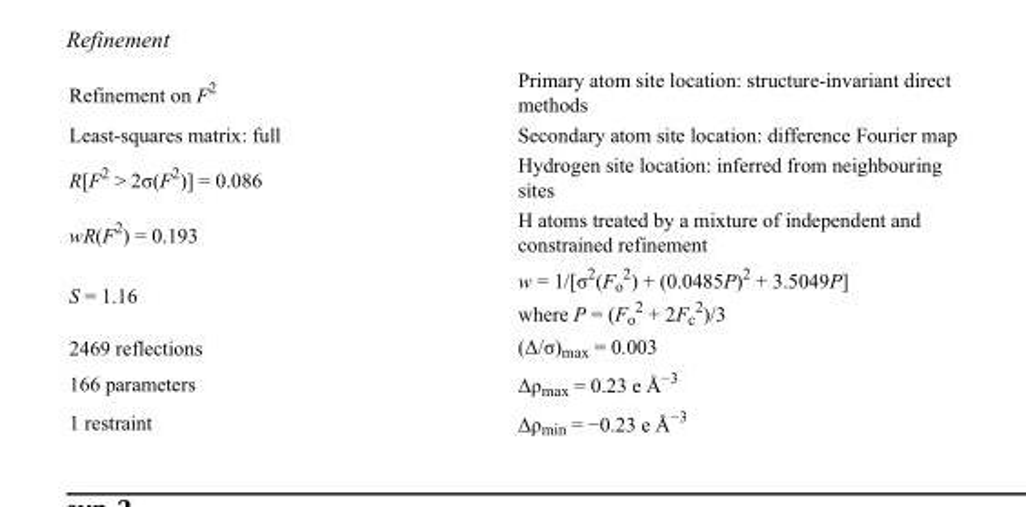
<table><tbody><tr><td>Refinement on F<sup>2</sup></td><td>Primary atom site location: structure-invariant direct methods</td></tr><tr><td>Least-squares matrix: full</td><td>Secondary atom site location: difference Fourier map</td></tr><tr><td>R[F<sup>2</sup> &gt; 2σ(F<sup>2</sup>)] = 0.086</td><td>Hydrogen site location: inferred from neighbouring sites</td></tr><tr><td>wR(F<sup>2</sup>) = 0.193</td><td>H atoms treated by a mixture of independent and constrained refinement</td></tr><tr><td>S = 1.16</td><td>w = 1/[σ<sup>2</sup>(F<sub>o</sub> <sup>2</sup>) + (0.0485P)<sup>2</sup> + 3.5049P] where P = (F<sub>o</sub> <sup>2</sup> + 2F<sub>c</sub> <sup>2</sup>)/3</td></tr><tr><td>2469 reflections</td><td>(Δ/σ)<sub>max</sub> = 0.003</td></tr><tr><td>166 parameters</td><td>Δρ<sub>max</sub> = 0.23 e Å<sup>−3</sup></td></tr><tr><td>1 restraint</td><td>Δρ<sub>min</sub> = −0.23 e Å<sup>−3</sup></td></tr></tbody></table>